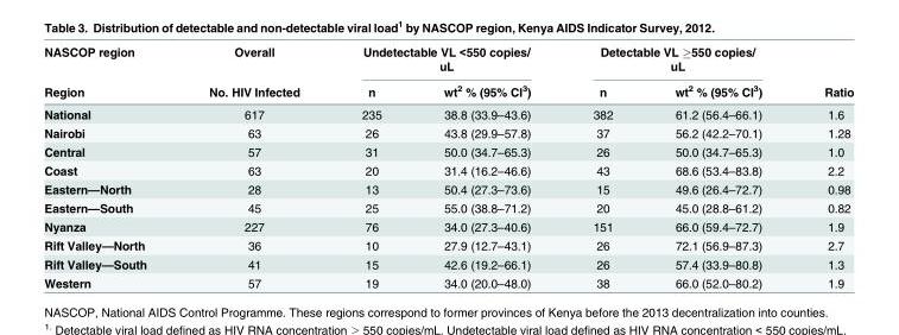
<table><thead><tr><td rowspan="2">NASCOP region Region</td><td rowspan="2">Overall No. HIV Infected</td><td colspan="2">Undetectable VL &lt;550 copies/ uL</td><td colspan="2">Detectable VL ≥550 copies/ uL</td><td rowspan="2">Ratio</td></tr><tr><td>n</td><td>wt<sup>2</sup> % (95% CI<sup>3</sup>)</td><td>n</td><td>wt<sup>2</sup> % (95% CI<sup>3</sup>)</td></tr></thead><tbody><tr><td>National</td><td>617</td><td>235</td><td>38.8 (33.9–43.6)</td><td>382</td><td>61.2 (56.4–66.1)</td><td>1.6</td></tr><tr><td>Nairobi</td><td>63</td><td>26</td><td>43.8 (29.9–57.8)</td><td>37</td><td>56.2 (42.2–70.1)</td><td>1.28</td></tr><tr><td>Central</td><td>57</td><td>31</td><td>50.0 (34.7–65.3)</td><td>26</td><td>50.0 (34.7–65.3)</td><td>1.0</td></tr><tr><td>Coast</td><td>63</td><td>20</td><td>31.4 (16.2–46.6)</td><td>43</td><td>68.6 (53.4–83.8)</td><td>2.2</td></tr><tr><td>Eastern—North</td><td>28</td><td>13</td><td>50.4 (27.3–73.6)</td><td>15</td><td>49.6 (26.4–72.7)</td><td>0.98</td></tr><tr><td>Eastern—South</td><td>45</td><td>25</td><td>55.0 (38.8–71.2)</td><td>20</td><td>45.0 (28.8–61.2)</td><td>0.82</td></tr><tr><td>Nyanza</td><td>227</td><td>76</td><td>34.0 (27.3–40.6)</td><td>151</td><td>66.0 (59.4–72.7)</td><td>1.9</td></tr><tr><td>Rift Valley—North</td><td>36</td><td>10</td><td>27.9 (12.7–43.1)</td><td>26</td><td>72.1 (56.9–87.3)</td><td>2.7</td></tr><tr><td>Rift Valley—South</td><td>41</td><td>15</td><td>42.6 (19.2–66.1)</td><td>26</td><td>57.4 (33.9–80.8)</td><td>1.3</td></tr><tr><td>Western</td><td>57</td><td>19</td><td>34.0 (20.0–48.0)</td><td>38</td><td>66.0 (52.0–80.2)</td><td>1.9</td></tr></tbody></table>